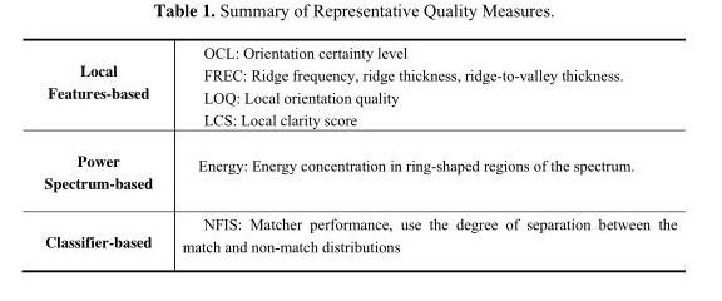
<table><tbody><tr><td>Local Features-based</td><td>OCL: Orientation certainty level FREC: Ridge frequency, ridge thickness, ridge-to-valley thickness. LOQ: Local orientation quality LCS: Local clarity score</td></tr><tr><td>Power Spectrum-based</td><td>Energy: Energy concentration in ring-shaped regions of the spectrum.</td></tr><tr><td>Classifier-based</td><td>NFIS: Matcher performance, use the degree of separation between the match and non-match distributions</td></tr></tbody></table>